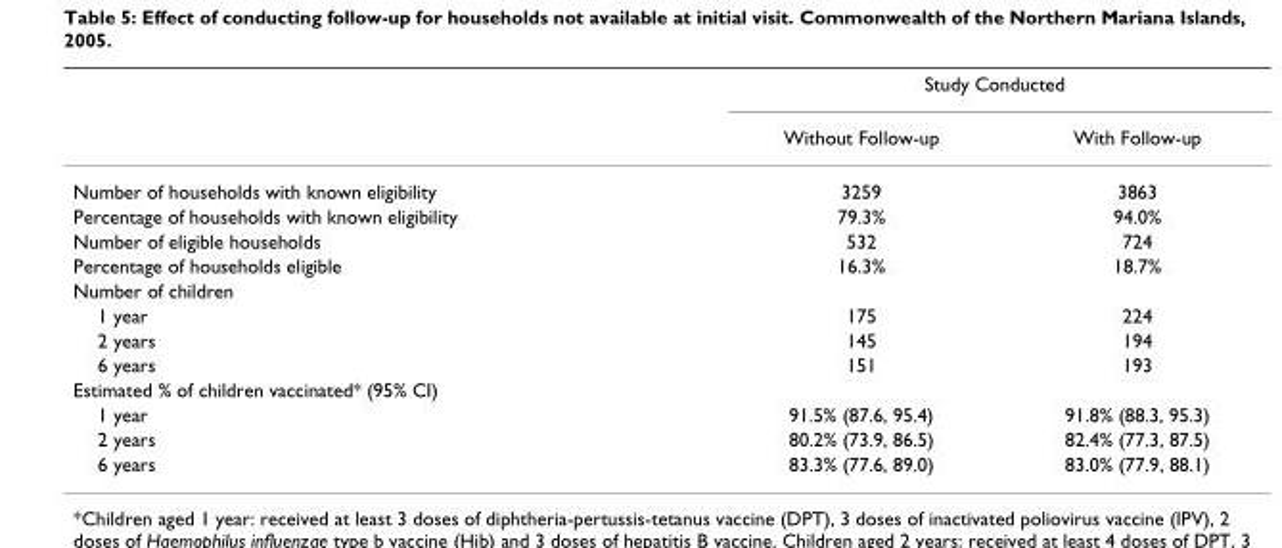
<table><thead><tr><td rowspan="2"></td><td colspan="2">Study Conducted</td></tr><tr><td>Without Follow-up</td><td>With Follow-up</td></tr></thead><tbody><tr><td>Number of households with known eligibility</td><td>3259</td><td>3863</td></tr><tr><td>Percentage of households with known eligibility</td><td>79.3%</td><td>94.0%</td></tr><tr><td>Number of eligible households</td><td>532</td><td>724</td></tr><tr><td>Percentage of households eligible</td><td>16.3%</td><td>18.7%</td></tr><tr><td colspan="3">Number of children</td></tr><tr><td>1 year</td><td>175</td><td>224</td></tr><tr><td>2 years</td><td>145</td><td>194</td></tr><tr><td>6 years</td><td>151</td><td>193</td></tr><tr><td colspan="3">Estimated % of children vaccinated* (95% CI)</td></tr><tr><td>1 year</td><td>91.5% (87.6, 95.4)</td><td>91.8% (88.3, 95.3)</td></tr><tr><td>2 years</td><td>80.2% (73.9, 86.5)</td><td>82.4% (77.3, 87.5)</td></tr><tr><td>6 years</td><td>83.3% (77.6, 89.0)</td><td>83.0% (77.9, 88.1)</td></tr></tbody></table>